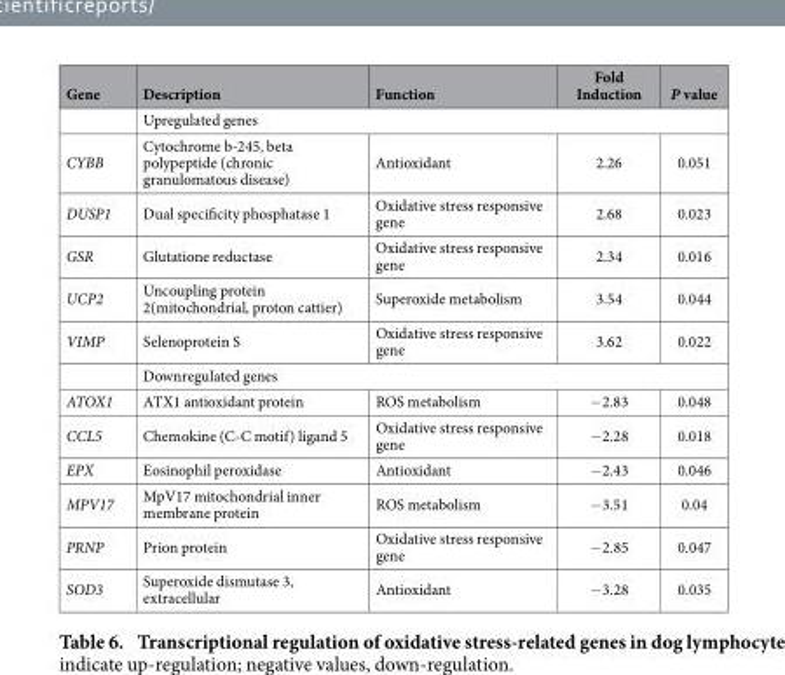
<table><thead><tr><td>Gene</td><td>Description</td><td>Function</td><td>Fold Induction</td><td>P value</td></tr></thead><tbody><tr><td></td><td>Upregulated genes</td><td></td><td></td><td></td></tr><tr><td>CYBB</td><td>Cytochrome b-245, beta polypeptide (chronic granulomatous disease)</td><td>Antioxidant</td><td>2.26</td><td>0.051</td></tr><tr><td>DUSP1</td><td>Dual specificity phosphatase 1</td><td>Oxidative stress responsive gene</td><td>2.68</td><td>0.023</td></tr><tr><td>GSR</td><td>Glutatione reductase</td><td>Oxidative stress responsive gene</td><td>2.34</td><td>0.016</td></tr><tr><td>UCP2</td><td>Uncoupling protein 2(mitochondrial, proton cattier)</td><td>Superoxide metabolism</td><td>3.54</td><td>0.044</td></tr><tr><td rowspan="2">VIMP</td><td>Selenoprotein S</td><td>Oxidative stress responsive gene</td><td>3.62</td><td>0.022</td></tr><tr><td>Downregulated genes</td><td></td><td></td><td></td></tr><tr><td>ATOX1</td><td>ATX1 antioxidant protein</td><td>ROS metabolism</td><td>− 2.83</td><td>0.048</td></tr><tr><td>CCL5</td><td>Chemokine (C-C motif) ligand 5</td><td>Oxidative stress responsive gene</td><td>− 2.28</td><td>0.018</td></tr><tr><td>EPX</td><td>Eosinophil peroxidase</td><td>Antioxidant</td><td>− 2.43</td><td>0.046</td></tr><tr><td>MPV17</td><td>MpV17 mitochondrial inner membrane protein</td><td>ROS metabolism</td><td>− 3.51</td><td>0.04</td></tr><tr><td>PRNP</td><td>Prion protein</td><td>Oxidative stress responsive gene</td><td>− 2.85</td><td>0.047</td></tr><tr><td>SOD3</td><td>Superoxide dismutase 3, extracellular</td><td>Antioxidant</td><td>− 3.28</td><td>0.035</td></tr></tbody></table>